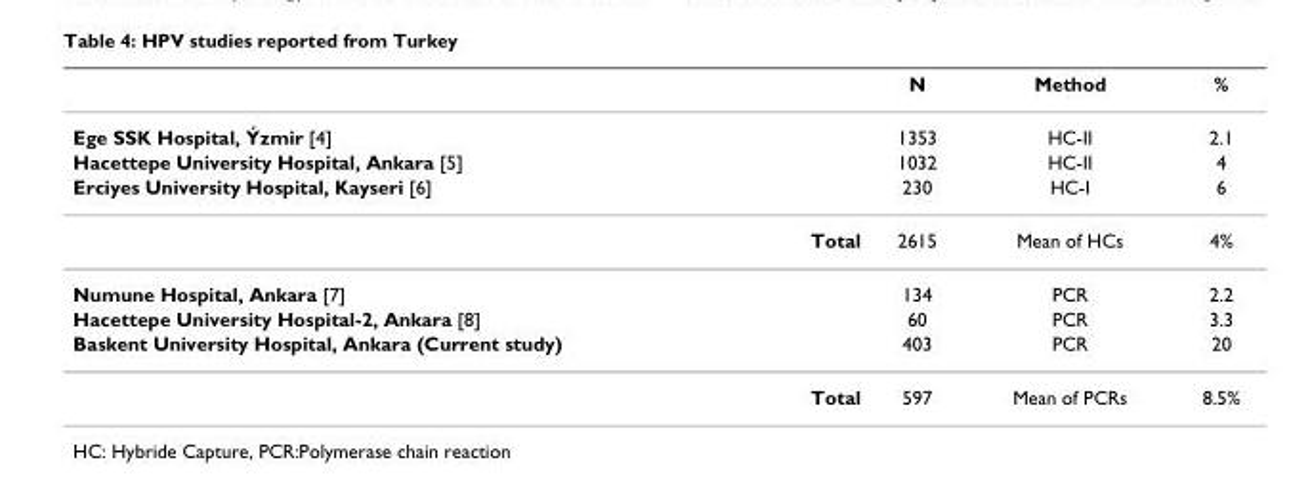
<table><thead><tr><td></td><td>N</td><td>Method</td><td>%</td></tr></thead><tbody><tr><td>Ege SSK Hospital, Ýzmir [4]</td><td>1353</td><td>HC-II</td><td>2.1</td></tr><tr><td>Hacettepe University Hospital, Ankara [5]</td><td>1032</td><td>HC-II</td><td>4</td></tr><tr><td>Erciyes University Hospital, Kayseri [6]</td><td>230</td><td>HC-I</td><td>6</td></tr><tr><td>Total</td><td>2615</td><td>Mean of HCs</td><td>4%</td></tr><tr><td>Numune Hospital, Ankara [7]</td><td>134</td><td>PCR</td><td>2.2</td></tr><tr><td>Hacettepe University Hospital-2, Ankara [8]</td><td>60</td><td>PCR</td><td>3.3</td></tr><tr><td>Baskent University Hospital, Ankara (Current study)</td><td>403</td><td>PCR</td><td>20</td></tr><tr><td>Total</td><td>597</td><td>Mean of PCRs</td><td>8.5%</td></tr></tbody></table>